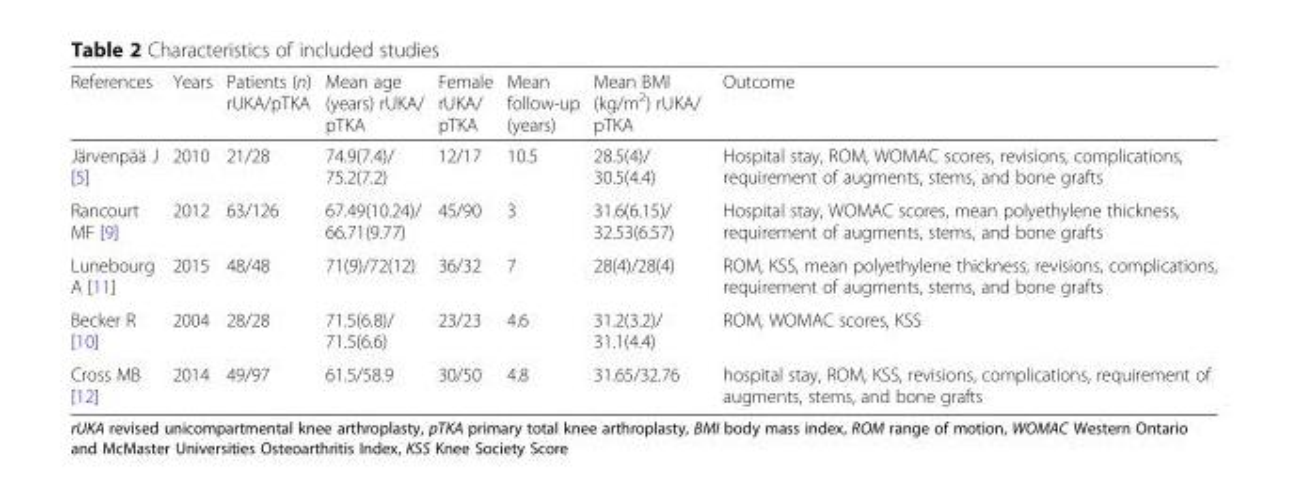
<table><thead><tr><td>References</td><td>Years</td><td>Patients (n) rUKA/pTKA</td><td>Mean age (years) rUKA/ pTKA</td><td>Female rUKA/ pTKA</td><td>Mean follow-up (years)</td><td>Mean BMI (kg/m<sup>2</sup>) rUKA/ pTKA</td><td>Outcome</td></tr></thead><tbody><tr><td>Järvenpää J [5]</td><td>2010</td><td>21/28</td><td>74.9(7.4)/ 75.2(7.2)</td><td>12/17</td><td>10.5</td><td>28.5(4)/ 30.5(4.4)</td><td>Hospital stay, ROM, WOMAC scores, revisions, complications, requirement of augments, stems, and bone grafts</td></tr><tr><td>Rancourt MF [9]</td><td>2012</td><td>63/126</td><td>67.49(10.24)/ 66.71(9.77)</td><td>45/90</td><td>3</td><td>31.6(6.15)/ 32.53(6.57)</td><td>Hospital stay, WOMAC scores, mean polyethylene thickness, requirement of augments, stems, and bone grafts</td></tr><tr><td>Lunebourg A [11]</td><td>2015</td><td>48/48</td><td>71(9)/72(12)</td><td>36/32</td><td>7</td><td>28(4)/28(4)</td><td>ROM, KSS, mean polyethylene thickness, revisions, complications, requirement of augments, stems, and bone grafts</td></tr><tr><td>Becker R [10]</td><td>2004</td><td>28/28</td><td>71.5(6.8)/ 71.5(6.6)</td><td>23/23</td><td>4.6</td><td>31.2(3.2)/ 31.1(4.4)</td><td>ROM, WOMAC scores, KSS</td></tr><tr><td>Cross MB [12]</td><td>2014</td><td>49/97</td><td>61.5/58.9</td><td>30/50</td><td>4.8</td><td>31.65/32.76</td><td>hospital stay, ROM, KSS, revisions, complications, requirement of augments, stems, and bone grafts</td></tr></tbody></table>